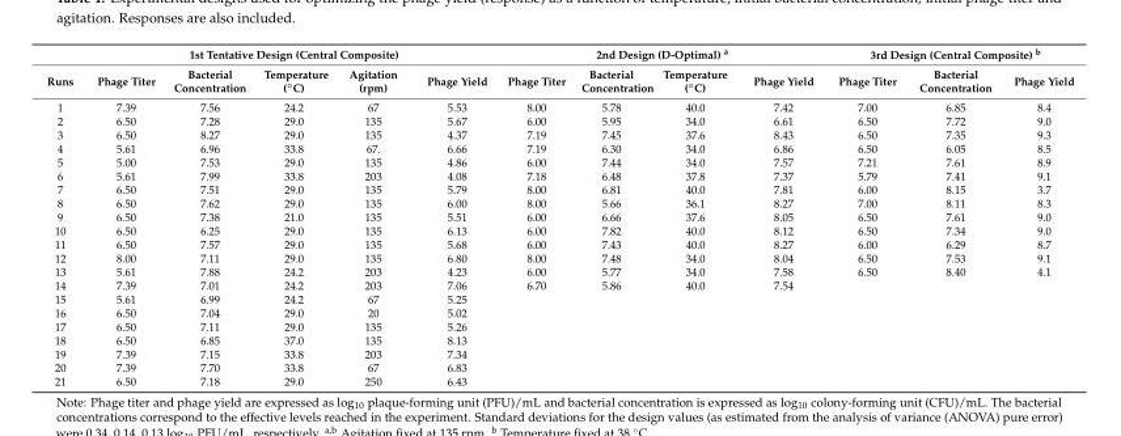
<table><thead><tr><td rowspan="2">Runs</td><td colspan="5">1st Tentative Design (Central Composite)</td><td colspan="4">2nd Design (D-Optimal) <sup>a</sup></td><td colspan="3">3rd Design (Central Composite) <sup>b</sup></td></tr><tr><td>Phage Titer</td><td>Bacterial Concentration</td><td>Temperature (◦C)</td><td>Agitation (rpm)</td><td>Phage Yield</td><td>Phage Titer</td><td>Bacterial Concentration</td><td>Temperature (◦C)</td><td>Phage Yield</td><td>Phage Titer</td><td>Bacterial Concentration</td><td>Phage Yield</td></tr></thead><tbody><tr><td>1</td><td>7.39</td><td>7.56</td><td>24.2</td><td>67</td><td>5.53</td><td>8.00</td><td>5.78</td><td>40.0</td><td>7.42</td><td>7.00</td><td>6.85</td><td>8.4</td></tr><tr><td>2</td><td>6.50</td><td>7.28</td><td>29.0</td><td>135</td><td>5.67</td><td>6.00</td><td>5.95</td><td>34.0</td><td>6.61</td><td>6.50</td><td>7.72</td><td>9.0</td></tr><tr><td>3</td><td>6.50</td><td>8.27</td><td>29.0</td><td>135</td><td>4.37</td><td>7.19</td><td>7.45</td><td>37.6</td><td>8.43</td><td>6.50</td><td>7.35</td><td>9.3</td></tr><tr><td>4</td><td>5.61</td><td>6.96</td><td>33.8</td><td>67.</td><td>6.66</td><td>7.19</td><td>6.30</td><td>34.0</td><td>6.86</td><td>6.50</td><td>6.05</td><td>8.5</td></tr><tr><td>5</td><td>5.00</td><td>7.53</td><td>29.0</td><td>135</td><td>4.86</td><td>6.00</td><td>7.44</td><td>34.0</td><td>7.57</td><td>7.21</td><td>7.61</td><td>8.9</td></tr><tr><td>6</td><td>5.61</td><td>7.99</td><td>33.8</td><td>203</td><td>4.08</td><td>7.18</td><td>6.48</td><td>37.8</td><td>7.37</td><td>5.79</td><td>7.41</td><td>9.1</td></tr><tr><td>7</td><td>6.50</td><td>7.51</td><td>29.0</td><td>135</td><td>5.79</td><td>8.00</td><td>6.81</td><td>40.0</td><td>7.81</td><td>6.00</td><td>8.15</td><td>3.7</td></tr><tr><td>8</td><td>6.50</td><td>7.62</td><td>29.0</td><td>135</td><td>6.00</td><td>8.00</td><td>5.66</td><td>36.1</td><td>8.27</td><td>7.00</td><td>8.11</td><td>8.3</td></tr><tr><td>9</td><td>6.50</td><td>7.38</td><td>21.0</td><td>135</td><td>5.51</td><td>6.00</td><td>6.66</td><td>37.6</td><td>8.05</td><td>6.50</td><td>7.61</td><td>9.0</td></tr><tr><td>10</td><td>6.50</td><td>6.25</td><td>29.0</td><td>135</td><td>6.13</td><td>6.00</td><td>7.82</td><td>40.0</td><td>8.12</td><td>6.50</td><td>7.34</td><td>9.0</td></tr><tr><td>11</td><td>6.50</td><td>7.57</td><td>29.0</td><td>135</td><td>5.68</td><td>6.00</td><td>7.43</td><td>40.0</td><td>8.27</td><td>6.00</td><td>6.29</td><td>8.7</td></tr><tr><td>12</td><td>8.00</td><td>7.11</td><td>29.0</td><td>135</td><td>6.80</td><td>8.00</td><td>7.48</td><td>34.0</td><td>8.04</td><td>6.50</td><td>7.53</td><td>9.1</td></tr><tr><td>13</td><td>5.61</td><td>7.88</td><td>24.2</td><td>203</td><td>4.23</td><td>6.00</td><td>5.77</td><td>34.0</td><td>7.58</td><td>6.50</td><td>8.40</td><td>4.1</td></tr><tr><td>14</td><td>7.39</td><td>7.01</td><td>24.2</td><td>203</td><td>7.06</td><td>6.70</td><td>5.86</td><td>40.0</td><td>7.54</td><td></td><td></td><td></td></tr><tr><td>15</td><td>5.61</td><td>6.99</td><td>24.2</td><td>67</td><td>5.25</td><td></td><td></td><td></td><td></td><td></td><td></td><td></td></tr><tr><td>16</td><td>6.50</td><td>7.04</td><td>29.0</td><td>20</td><td>5.02</td><td></td><td></td><td></td><td></td><td></td><td></td><td></td></tr><tr><td>17</td><td>6.50</td><td>7.11</td><td>29.0</td><td>135</td><td>5.26</td><td></td><td></td><td></td><td></td><td></td><td></td><td></td></tr><tr><td>18</td><td>6.50</td><td>6.85</td><td>37.0</td><td>135</td><td>8.13</td><td></td><td></td><td></td><td></td><td></td><td></td><td></td></tr><tr><td>19</td><td>7.39</td><td>7.15</td><td>33.8</td><td>203</td><td>7.34</td><td></td><td></td><td></td><td></td><td></td><td></td><td></td></tr><tr><td>20</td><td>7.39</td><td>7.70</td><td>33.8</td><td>67</td><td>6.83</td><td></td><td></td><td></td><td></td><td></td><td></td><td></td></tr><tr><td>21</td><td>6.50</td><td>7.18</td><td>29.0</td><td>250</td><td>6.43</td><td></td><td></td><td></td><td></td><td></td><td></td><td></td></tr></tbody></table>